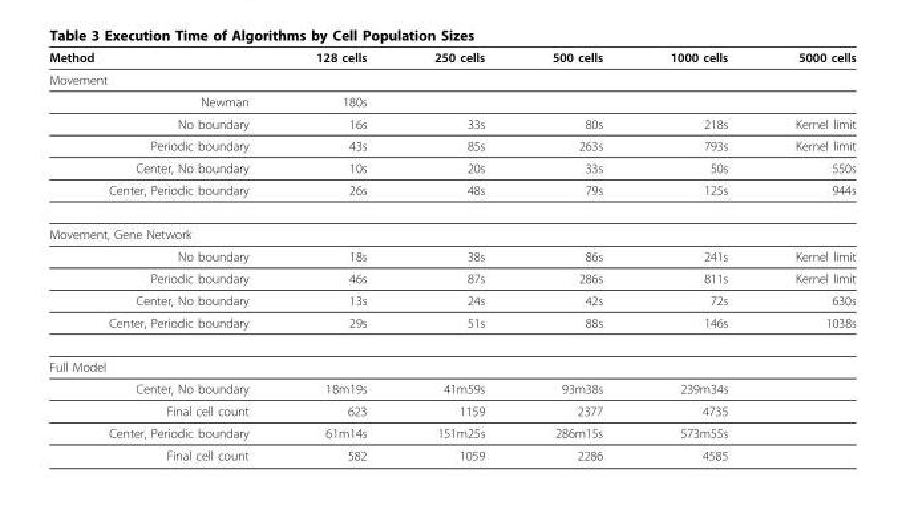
<table><thead><tr><td>Method</td><td>128 cells</td><td>250 cells</td><td>500 cells</td><td>1000 cells</td><td>5000 cells</td></tr></thead><tbody><tr><td colspan="6">Movement</td></tr><tr><td>Newman</td><td>180s</td><td></td><td></td><td></td><td></td></tr><tr><td>No boundary</td><td>16s</td><td>33s</td><td>80s</td><td>218s</td><td>Kernel limit</td></tr><tr><td>Periodic boundary</td><td>43s</td><td>85s</td><td>263s</td><td>793s</td><td>Kernel limit</td></tr><tr><td>Center, No boundary</td><td>10s</td><td>20s</td><td>33s</td><td>50s</td><td>550s</td></tr><tr><td>Center, Periodic boundary</td><td>26s</td><td>48s</td><td>79s</td><td>125s</td><td>944s</td></tr><tr><td colspan="6">Movement, Gene Network</td></tr><tr><td>No boundary</td><td>18s</td><td>38s</td><td>86s</td><td>241s</td><td>Kernel limit</td></tr><tr><td>Periodic boundary</td><td>46s</td><td>87s</td><td>286s</td><td>811s</td><td>Kernel limit</td></tr><tr><td>Center, No boundary</td><td>13s</td><td>24s</td><td>42s</td><td>72s</td><td>630s</td></tr><tr><td>Center, Periodic boundary</td><td>29s</td><td>51s</td><td>88s</td><td>146s</td><td>1038s</td></tr><tr><td colspan="6">Full Model</td></tr><tr><td>Center, No boundary</td><td>18m19s</td><td>41m59s</td><td>93m38s</td><td>239m34s</td><td></td></tr><tr><td>Final cell count</td><td>623</td><td>1159</td><td>2377</td><td>4735</td><td></td></tr><tr><td>Center, Periodic boundary</td><td>61m14s</td><td>151m25s</td><td>286m15s</td><td>573m55s</td><td></td></tr><tr><td>Final cell count</td><td>582</td><td>1059</td><td>2286</td><td>4585</td><td></td></tr></tbody></table>